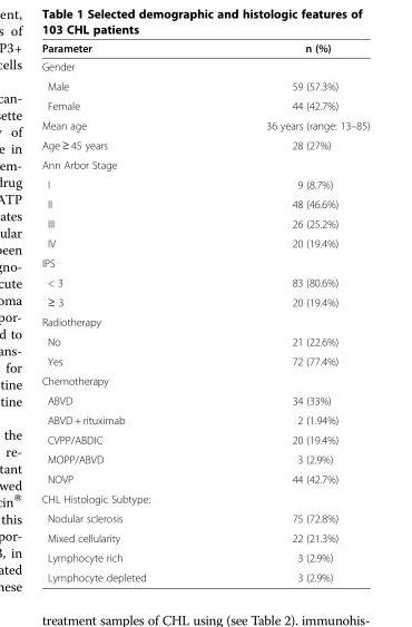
<table><thead><tr><td>Parameter</td><td>n (%)</td></tr></thead><tbody><tr><td colspan="2">Gender</td></tr><tr><td>Male</td><td>59 (57.3%)</td></tr><tr><td>Female</td><td>44 (42.7%)</td></tr><tr><td>Mean age</td><td>36 years (range: 13–85)</td></tr><tr><td>Age ≥ 45 years</td><td>28 (27%)</td></tr><tr><td colspan="2">Ann Arbor Stage</td></tr><tr><td>I</td><td>9 (8.7%)</td></tr><tr><td>II</td><td>48 (46.6%)</td></tr><tr><td>III</td><td>26 (25.2%)</td></tr><tr><td>IV</td><td>20 (19.4%)</td></tr><tr><td colspan="2">IPS</td></tr><tr><td>&lt; 3</td><td>83 (80.6%)</td></tr><tr><td>≥ 3</td><td>20 (19.4%)</td></tr><tr><td colspan="2">Radiotherapy</td></tr><tr><td>No</td><td>21 (22.6%)</td></tr><tr><td>Yes</td><td>72 (77.4%)</td></tr><tr><td colspan="2">Chemotherapy</td></tr><tr><td>ABVD</td><td>34 (33%)</td></tr><tr><td>ABVD + rituximab</td><td>2 (1.94%)</td></tr><tr><td>CVPP/ABDIC</td><td>20 (19.4%)</td></tr><tr><td>MOPP/ABVD</td><td>3 (2.9%)</td></tr><tr><td>NOVP</td><td>44 (42.7%)</td></tr><tr><td colspan="2">CHL Histologic Subtype:</td></tr><tr><td>Nodular sclerosis</td><td>75 (72.8%)</td></tr><tr><td>Mixed cellularity</td><td>22 (21.3%)</td></tr><tr><td>Lymphocyte rich</td><td>3 (2.9%)</td></tr><tr><td>Lymphocyte depleted</td><td>3 (2.9%)</td></tr></tbody></table>